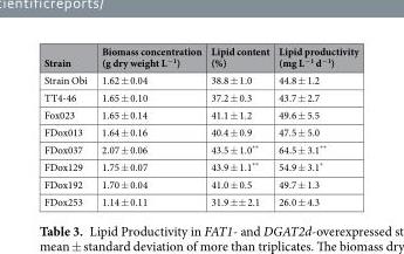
<table><thead><tr><td>Strain</td><td>Biomass concentration (g dry weight L<sup>−1</sup>)</td><td>Lipid content (%)</td><td>Lipid productivity (mg L<sup>−1</sup> d<sup>−1</sup>)</td></tr></thead><tbody><tr><td>Strain Obi</td><td>1.62 ± 0.04</td><td>38.8 ± 1.0</td><td>44.8 ± 1.2</td></tr><tr><td>TT4-46</td><td>1.65 ± 0.10</td><td>37.2 ± 0.3</td><td>43.7 ± 2.7</td></tr><tr><td>Fox023</td><td>1.65 ± 0.14</td><td>41.1 ± 1.2</td><td>49.6 ± 5.5</td></tr><tr><td>FDox013</td><td>1.64 ± 0.16</td><td>40.4 ± 0.9</td><td>47.5 ± 5.0</td></tr><tr><td>FDox037</td><td>2.07 ± 0.06</td><td>43.5 ± 1.0**</td><td>64.5 ± 3.1**</td></tr><tr><td>FDox129</td><td>1.75 ± 0.07</td><td>43.9 ± 1.1**</td><td>54.9 ± 3.1*</td></tr><tr><td>FDox192</td><td>1.70 ± 0.04</td><td>41.0 ± 0.5</td><td>49.7 ± 1.3</td></tr><tr><td>FDox253</td><td>1.14 ± 0.11</td><td>31.9 ±± 2.1</td><td>26.0 ± 4.3</td></tr></tbody></table>